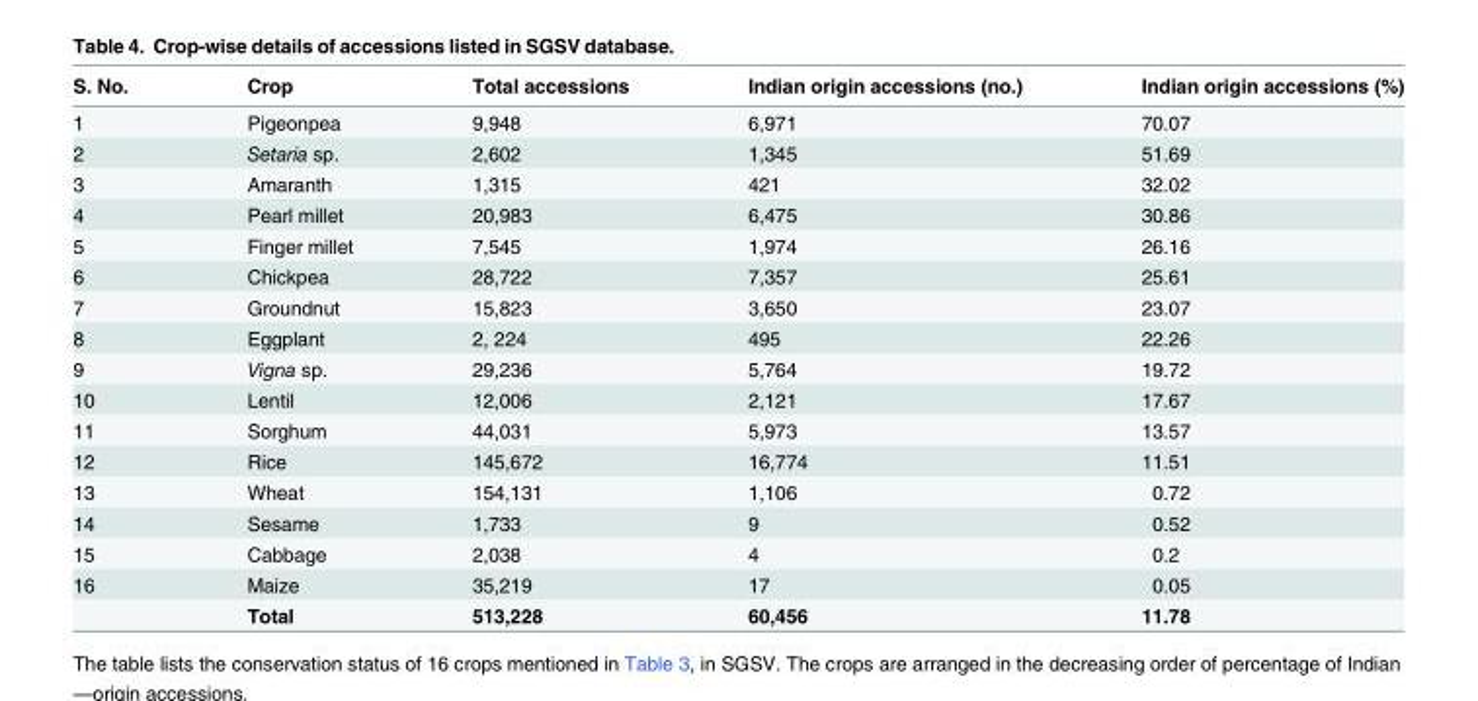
<table><thead><tr><td>S. No.</td><td>Crop</td><td>Total accessions</td><td>Indian origin accessions (no.)</td><td>Indian origin accessions (%)</td></tr></thead><tbody><tr><td>1</td><td>Pigeonpea</td><td>9,948</td><td>6,971</td><td>70.07</td></tr><tr><td>2</td><td>Setaria sp.</td><td>2,602</td><td>1,345</td><td>51.69</td></tr><tr><td>3</td><td>Amaranth</td><td>1,315</td><td>421</td><td>32.02</td></tr><tr><td>4</td><td>Pearl millet</td><td>20,983</td><td>6,475</td><td>30.86</td></tr><tr><td>5</td><td>Finger millet</td><td>7,545</td><td>1,974</td><td>26.16</td></tr><tr><td>6</td><td>Chickpea</td><td>28,722</td><td>7,357</td><td>25.61</td></tr><tr><td>7</td><td>Groundnut</td><td>15,823</td><td>3,650</td><td>23.07</td></tr><tr><td>8</td><td>Eggplant</td><td>2, 224</td><td>495</td><td>22.26</td></tr><tr><td>9</td><td>Vigna sp.</td><td>29,236</td><td>5,764</td><td>19.72</td></tr><tr><td>10</td><td>Lentil</td><td>12,006</td><td>2,121</td><td>17.67</td></tr><tr><td>11</td><td>Sorghum</td><td>44,031</td><td>5,973</td><td>13.57</td></tr><tr><td>12</td><td>Rice</td><td>145,672</td><td>16,774</td><td>11.51</td></tr><tr><td>13</td><td>Wheat</td><td>154,131</td><td>1,106</td><td>0.72</td></tr><tr><td>14</td><td>Sesame</td><td>1,733</td><td>9</td><td>0.52</td></tr><tr><td>15</td><td>Cabbage</td><td>2,038</td><td>4</td><td>0.2</td></tr><tr><td rowspan="2">16</td><td>Maize</td><td>35,219</td><td>17</td><td>0.05</td></tr><tr><td>Total</td><td>513,228</td><td>60,456</td><td>11.78</td></tr></tbody></table>